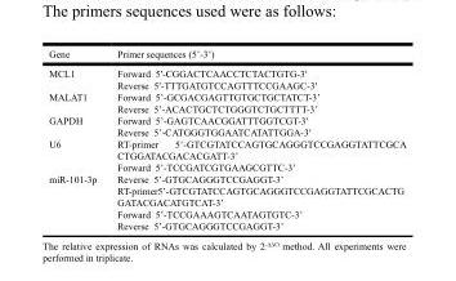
<table><thead><tr><td>Gene</td><td>Primer sequences (5’-3’)</td></tr></thead><tbody><tr><td>MCL1 MALAT1 GAPDH U6 miR-101-3p</td><td>Forward 5′-CGGACTCAACCTCTACTGTG-3′ Reverse 5′-TTTGATGTCCAGTTTCCGAAGC-3′ Forward 5’-GCGACGAGTTGTGCTGCTATCT-3’ Reverse 5’-ACACTGCTCTGGGTCTGCTTTT-3’ Forward 5’-GAGTCAACGGATTTGGTCGT-3′ Reverse 5’-CATGGGTGGAATCATATTGGA-3′ RT-primer 5’-GTCGTATCCAGTGCAGGGTCCGAGGTATTCGCA CTGGATACGACACGATT-3’ Forward 5’-TCCGATCGTGAAGCGTTC-3’ Reverse 5’-GTGCAGGGTCCGAGGT-3’ RT-primer5’-GTCGTATCCAGTGCAGGGTCCGAGGTATTCGCACTG GATACGACATGTCAT-3’ Forward 5’-TCCGAAAGTCAATAGTGTC-3’ Reverse 5’-GTGCAGGGTCCGAGGT-3’</td></tr></tbody></table>